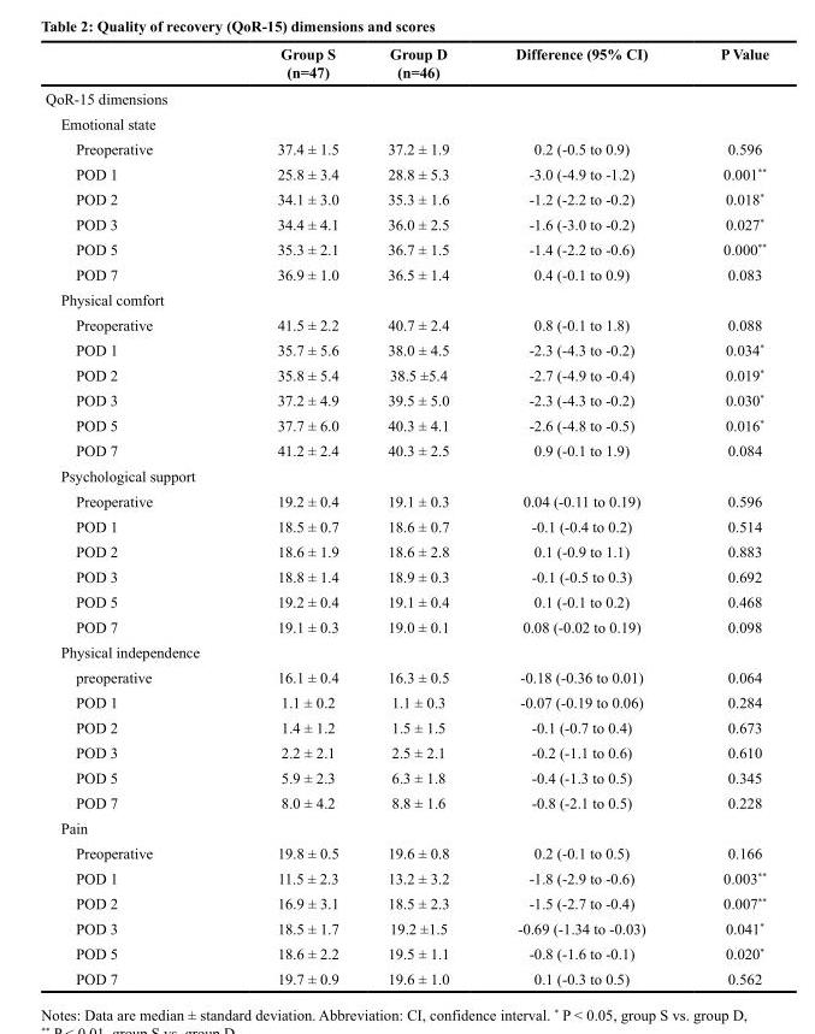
<table><thead><tr><td></td><td>Group S (n=47)</td><td>Group D (n=46)</td><td>Difference (95% CI)</td><td>P Value</td></tr></thead><tbody><tr><td colspan="5">QoR-15 dimensions</td></tr><tr><td colspan="5">Emotional state</td></tr><tr><td>Preoperative</td><td>37.4 ± 1.5</td><td>37.2 ± 1.9</td><td>0.2 (-0.5 to 0.9)</td><td>0.596</td></tr><tr><td>POD 1</td><td>25.8 ± 3.4</td><td>28.8 ± 5.3</td><td>-3.0 (-4.9 to -1.2)</td><td>0.001**</td></tr><tr><td>POD 2</td><td>34.1 ± 3.0</td><td>35.3 ± 1.6</td><td>-1.2 (-2.2 to -0.2)</td><td>0.018*</td></tr><tr><td>POD 3</td><td>34.4 ± 4.1</td><td>36.0 ± 2.5</td><td>-1.6 (-3.0 to -0.2)</td><td>0.027*</td></tr><tr><td>POD 5</td><td>35.3 ± 2.1</td><td>36.7 ± 1.5</td><td>-1.4 (-2.2 to -0.6)</td><td>0.000**</td></tr><tr><td>POD 7</td><td>36.9 ± 1.0</td><td>36.5 ± 1.4</td><td>0.4 (-0.1 to 0.9)</td><td>0.083</td></tr><tr><td colspan="5">Physical comfort</td></tr><tr><td>Preoperative</td><td>41.5 ± 2.2</td><td>40.7 ± 2.4</td><td>0.8 (-0.1 to 1.8)</td><td>0.088</td></tr><tr><td>POD 1</td><td>35.7 ± 5.6</td><td>38.0 ± 4.5</td><td>-2.3 (-4.3 to -0.2)</td><td>0.034*</td></tr><tr><td>POD 2</td><td>35.8 ± 5.4</td><td>38.5 ±5.4</td><td>-2.7 (-4.9 to -0.4)</td><td>0.019*</td></tr><tr><td>POD 3</td><td>37.2 ± 4.9</td><td>39.5 ± 5.0</td><td>-2.3 (-4.3 to -0.2)</td><td>0.030*</td></tr><tr><td>POD 5</td><td>37.7 ± 6.0</td><td>40.3 ± 4.1</td><td>-2.6 (-4.8 to -0.5)</td><td>0.016*</td></tr><tr><td>POD 7</td><td>41.2 ± 2.4</td><td>40.3 ± 2.5</td><td>0.9 (-0.1 to 1.9)</td><td>0.084</td></tr><tr><td colspan="5">Psychological support</td></tr><tr><td>Preoperative</td><td>19.2 ± 0.4</td><td>19.1 ± 0.3</td><td>0.04 (-0.11 to 0.19)</td><td>0.596</td></tr><tr><td>POD 1</td><td>18.5 ± 0.7</td><td>18.6 ± 0.7</td><td>-0.1 (-0.4 to 0.2)</td><td>0.514</td></tr><tr><td>POD 2</td><td>18.6 ± 1.9</td><td>18.6 ± 2.8</td><td>0.1 (-0.9 to 1.1)</td><td>0.883</td></tr><tr><td>POD 3</td><td>18.8 ± 1.4</td><td>18.9 ± 0.3</td><td>-0.1 (-0.5 to 0.3)</td><td>0.692</td></tr><tr><td>POD 5</td><td>19.2 ± 0.4</td><td>19.1 ± 0.4</td><td>0.1 (-0.1 to 0.2)</td><td>0.468</td></tr><tr><td>POD 7</td><td>19.1 ± 0.3</td><td>19.0 ± 0.1</td><td>0.08 (-0.02 to 0.19)</td><td>0.098</td></tr><tr><td colspan="5">Physical independence</td></tr><tr><td>preoperative</td><td>16.1 ± 0.4</td><td>16.3 ± 0.5</td><td>-0.18 (-0.36 to 0.01)</td><td>0.064</td></tr><tr><td>POD 1</td><td>1.1 ± 0.2</td><td>1.1 ± 0.3</td><td>-0.07 (-0.19 to 0.06)</td><td>0.284</td></tr><tr><td>POD 2</td><td>1.4 ± 1.2</td><td>1.5 ± 1.5</td><td>-0.1 (-0.7 to 0.4)</td><td>0.673</td></tr><tr><td>POD 3</td><td>2.2 ± 2.1</td><td>2.5 ± 2.1</td><td>-0.2 (-1.1 to 0.6)</td><td>0.610</td></tr><tr><td>POD 5</td><td>5.9 ± 2.3</td><td>6.3 ± 1.8</td><td>-0.4 (-1.3 to 0.5)</td><td>0.345</td></tr><tr><td>POD 7</td><td>8.0 ± 4.2</td><td>8.8 ± 1.6</td><td>-0.8 (-2.1 to 0.5)</td><td>0.228</td></tr><tr><td colspan="5">Pain</td></tr><tr><td>Preoperative</td><td>19.8 ± 0.5</td><td>19.6 ± 0.8</td><td>0.2 (-0.1 to 0.5)</td><td>0.166</td></tr><tr><td>POD 1</td><td>11.5 ± 2.3</td><td>13.2 ± 3.2</td><td>-1.8 (-2.9 to -0.6)</td><td>0.003**</td></tr><tr><td>POD 2</td><td>16.9 ± 3.1</td><td>18.5 ± 2.3</td><td>-1.5 (-2.7 to -0.4)</td><td>0.007**</td></tr><tr><td>POD 3</td><td>18.5 ± 1.7</td><td>19.2 ±1.5</td><td>-0.69 (-1.34 to -0.03)</td><td>0.041*</td></tr><tr><td>POD 5</td><td>18.6 ± 2.2</td><td>19.5 ± 1.1</td><td>-0.8 (-1.6 to -0.1)</td><td>0.020*</td></tr><tr><td>POD 7</td><td>19.7 ± 0.9</td><td>19.6 ± 1.0</td><td>0.1 (-0.3 to 0.5)</td><td>0.562</td></tr></tbody></table>